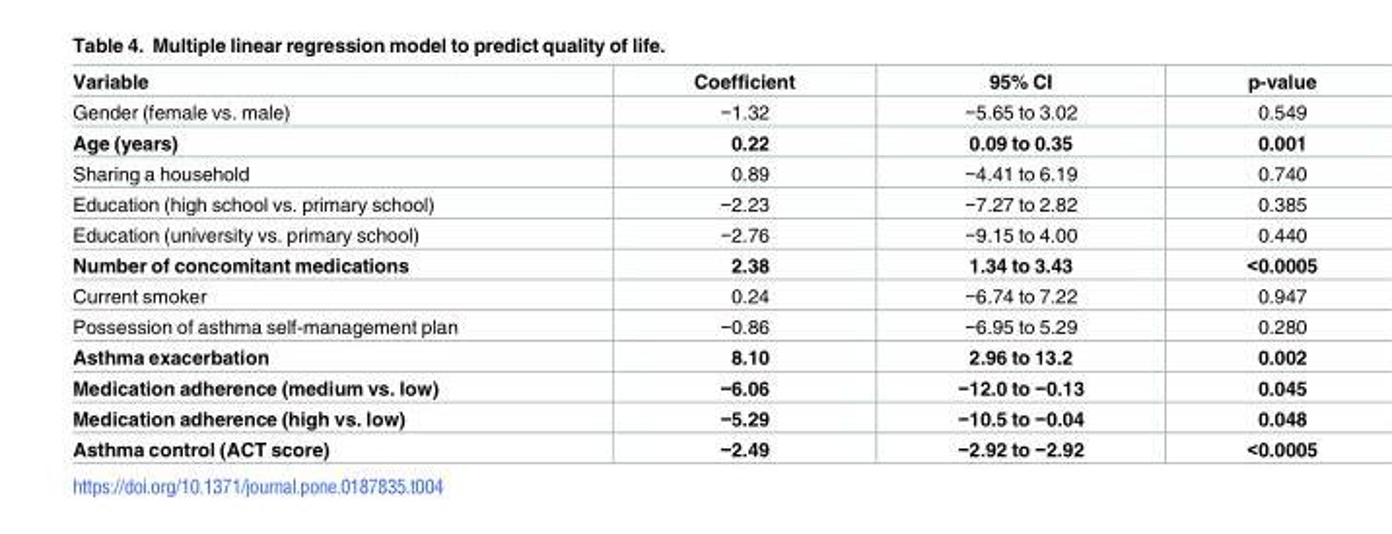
<table><thead><tr><td>Variable</td><td>Coefficient</td><td>95% CI</td><td>p-value</td></tr></thead><tbody><tr><td>Gender (female vs. male)</td><td>−1.32</td><td>−5.65 to 3.02</td><td>0.549</td></tr><tr><td>Age (years)</td><td>0.22</td><td>0.09 to 0.35</td><td>0.001</td></tr><tr><td>Sharing a household</td><td>0.89</td><td>−4.41 to 6.19</td><td>0.740</td></tr><tr><td>Education (high school vs. primary school)</td><td>−2.23</td><td>−7.27 to 2.82</td><td>0.385</td></tr><tr><td>Education (university vs. primary school)</td><td>−2.76</td><td>−9.15 to 4.00</td><td>0.440</td></tr><tr><td>Number of concomitant medications</td><td>2.38</td><td>1.34 to 3.43</td><td>&lt;0.0005</td></tr><tr><td>Current smoker</td><td>0.24</td><td>−6.74 to 7.22</td><td>0.947</td></tr><tr><td>Possession of asthma self-management plan</td><td>−0.86</td><td>−6.95 to 5.29</td><td>0.280</td></tr><tr><td>Asthma exacerbation</td><td>8.10</td><td>2.96 to 13.2</td><td>0.002</td></tr><tr><td>Medication adherence (medium vs. low)</td><td>−6.06</td><td>−12.0 to −0.13</td><td>0.045</td></tr><tr><td>Medication adherence (high vs. low)</td><td>−5.29</td><td>−10.5 to −0.04</td><td>0.048</td></tr><tr><td>Asthma control (ACT score)</td><td>−2.49</td><td>−2.92 to −2.92</td><td>&lt;0.0005</td></tr></tbody></table>